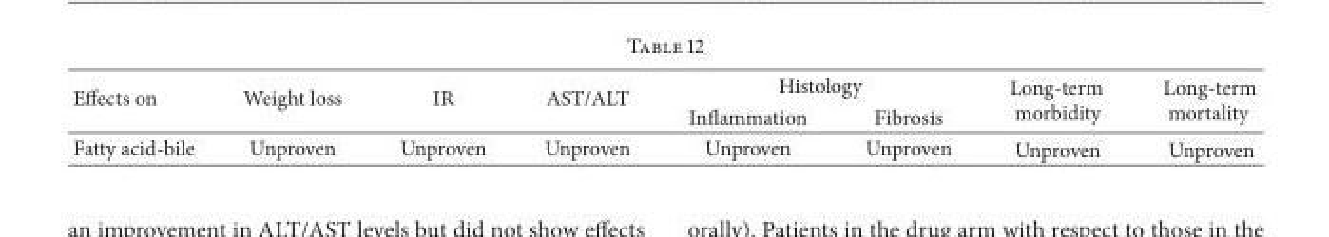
<table><thead><tr><td rowspan="2">Effects on</td><td rowspan="2">Weight loss</td><td rowspan="2">IR</td><td rowspan="2">AST/ALT</td><td colspan="2">Histology</td><td rowspan="2">Long-term morbidity</td><td rowspan="2">Long-term mortality</td></tr><tr><td>Inflammation</td><td>Fibrosis</td></tr></thead><tbody><tr><td>Fatty acid-bile</td><td>Unproven</td><td>Unproven</td><td>Unproven</td><td>Unproven</td><td>Unproven</td><td>Unproven</td><td>Unproven</td></tr></tbody></table>